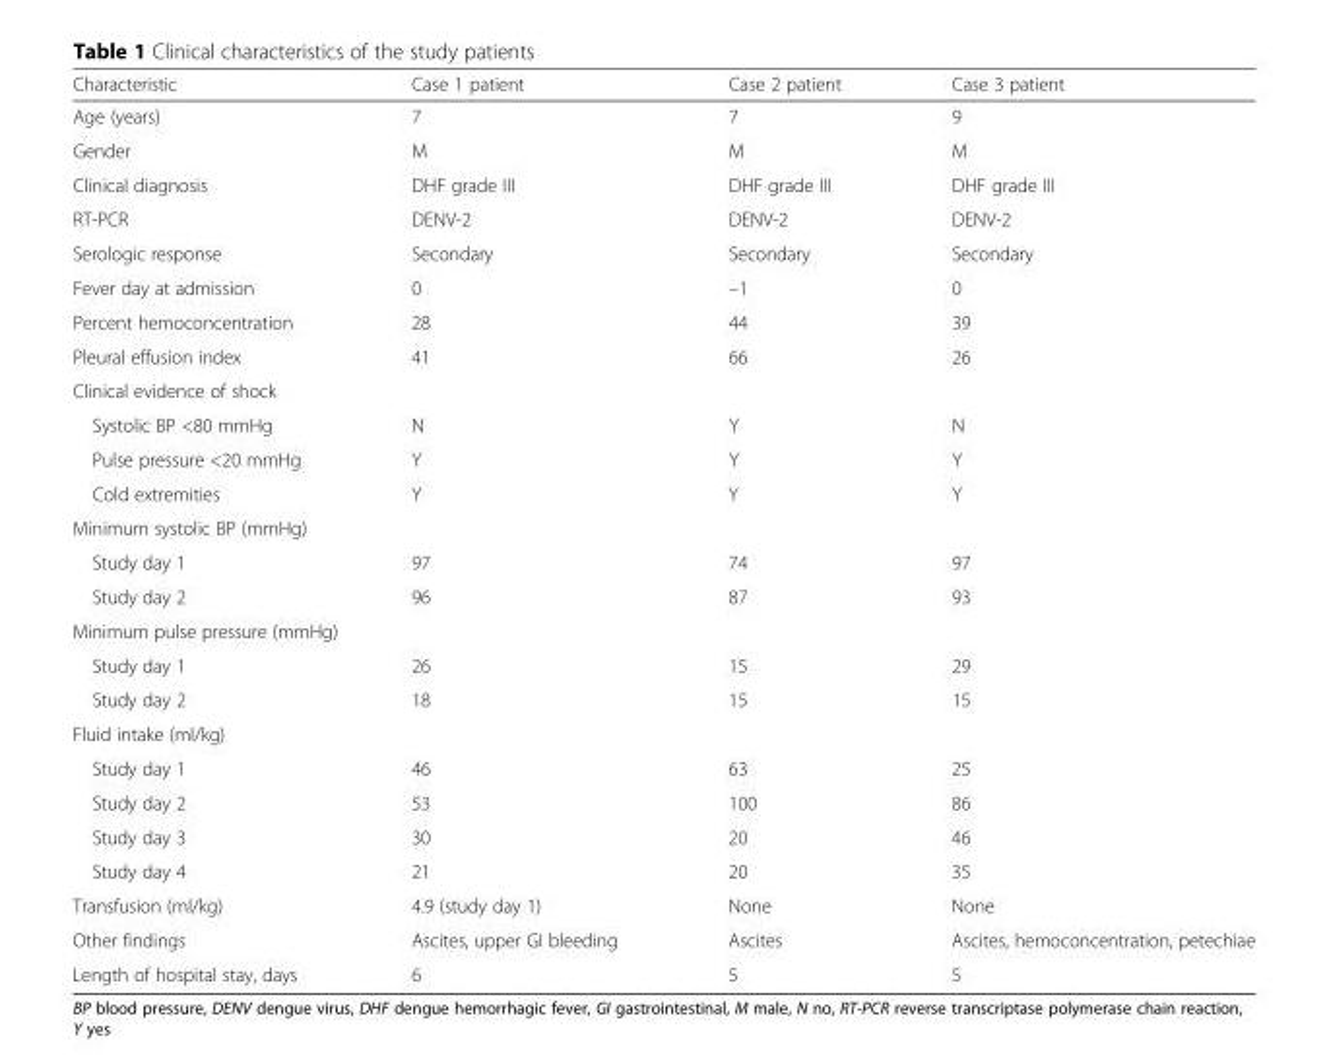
<table><thead><tr><td>Characteristic</td><td>Case 1 patient</td><td>Case 2 patient</td><td>Case 3 patient</td></tr></thead><tbody><tr><td>Age (years)</td><td>7</td><td>7</td><td>9</td></tr><tr><td>Gender</td><td>M</td><td>M</td><td>M</td></tr><tr><td>Clinical diagnosis</td><td>DHF grade III</td><td>DHF grade III</td><td>DHF grade III</td></tr><tr><td>RT-PCR</td><td>DENV-2</td><td>DENV-2</td><td>DENV-2</td></tr><tr><td>Serologic response</td><td>Secondary</td><td>Secondary</td><td>Secondary</td></tr><tr><td>Fever day at admission</td><td>0</td><td>–1</td><td>0</td></tr><tr><td>Percent hemoconcentration</td><td>28</td><td>44</td><td>39</td></tr><tr><td>Pleural effusion index</td><td>41</td><td>66</td><td>26</td></tr><tr><td colspan="4">Clinical evidence of shock</td></tr><tr><td>Systolic BP &lt;80 mmHg</td><td>N</td><td>Y</td><td>N</td></tr><tr><td>Pulse pressure &lt;20 mmHg</td><td>Y</td><td>Y</td><td>Y</td></tr><tr><td>Cold extremities</td><td>Y</td><td>Y</td><td>Y</td></tr><tr><td colspan="4">Minimum systolic BP (mmHg)</td></tr><tr><td>Study day 1</td><td>97</td><td>74</td><td>97</td></tr><tr><td>Study day 2</td><td>96</td><td>87</td><td>93</td></tr><tr><td colspan="4">Minimum pulse pressure (mmHg)</td></tr><tr><td>Study day 1</td><td>26</td><td>15</td><td>29</td></tr><tr><td>Study day 2</td><td>18</td><td>15</td><td>15</td></tr><tr><td colspan="4">Fluid intake (ml/kg)</td></tr><tr><td>Study day 1</td><td>46</td><td>63</td><td>25</td></tr><tr><td>Study day 2</td><td>53</td><td>100</td><td>86</td></tr><tr><td>Study day 3</td><td>30</td><td>20</td><td>46</td></tr><tr><td>Study day 4</td><td>21</td><td>20</td><td>35</td></tr><tr><td>Transfusion (ml/kg)</td><td>4.9 (study day 1)</td><td>None</td><td>None</td></tr><tr><td>Other findings</td><td>Ascites, upper GI bleeding</td><td>Ascites</td><td>Ascites, hemoconcentration, petechiae</td></tr><tr><td>Length of hospital stay, days</td><td>6</td><td>5</td><td>5</td></tr></tbody></table>